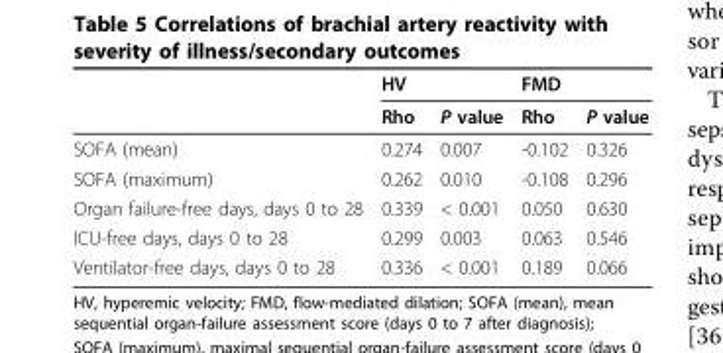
<table><thead><tr><td rowspan="2"></td><td colspan="2">HV</td><td colspan="2">FMD</td></tr><tr><td>Rho</td><td>P value</td><td>Rho</td><td>P value</td></tr></thead><tbody><tr><td>SOFA (mean)</td><td>0.274</td><td>0.007</td><td>-0.102</td><td>0.326</td></tr><tr><td>SOFA (maximum)</td><td>0.262</td><td>0.010</td><td>-0.108</td><td>0.296</td></tr><tr><td>Organ failure-free days, days 0 to 28</td><td>0.339</td><td>&lt; 0.001</td><td>0.050</td><td>0.630</td></tr><tr><td>ICU-free days, days 0 to 28</td><td>0.299</td><td>0.003</td><td>0.063</td><td>0.546</td></tr><tr><td>Ventilator-free days, days 0 to 28</td><td>0.336</td><td>&lt; 0.001</td><td>0.189</td><td>0.066</td></tr></tbody></table>